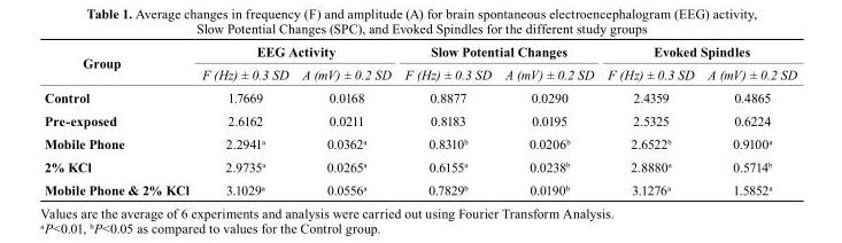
<table><thead><tr><td rowspan="2">Group</td><td colspan="2">EEG Activity</td><td colspan="2">Slow Potential Changes</td><td colspan="2">Evoked spindles</td></tr><tr><td>F (Hz) ± 0.3 SD</td><td>A (mV) ± 0.2 SD</td><td>F (Hz) ± 0.3 SD</td><td>A (mV) ± 0.2 SD</td><td>F (Hz) ± 0.3 SD</td><td>A (mV) ± 0.2 SD</td></tr></thead><tbody><tr><td>control</td><td>1.7669</td><td>0.0168</td><td>0.8877</td><td>0.0290</td><td>2.4359</td><td>0.4865</td></tr><tr><td>Pre-exposed</td><td>2.6162</td><td>0.0211</td><td>0.8183</td><td>0.0195</td><td>2.5325</td><td>0.6224</td></tr><tr><td>Mobile Phone</td><td>2.2941<sup>a</sup></td><td>0.0362<sup>a</sup></td><td>0.8310<sup>b</sup></td><td>0.0206<sup>b</sup></td><td>2.6522<sup>b</sup></td><td>0.9100<sup>a</sup></td></tr><tr><td>2% KCl</td><td>2.9735<sup>a</sup></td><td>0.0265<sup>a</sup></td><td>0.6155<sup>a</sup></td><td>0.0238<sup>b</sup></td><td>2.8880<sup>a</sup></td><td>0.5714<sup>b</sup></td></tr><tr><td>Mobile Phone &amp; 2% KCl</td><td>3.1029<sup>a</sup></td><td>0.0556<sup>a</sup></td><td>0.7829<sup>b</sup></td><td>0.0190<sup>b</sup></td><td>3.1276<sup>a</sup></td><td>1.5852<sup>a</sup></td></tr></tbody></table>